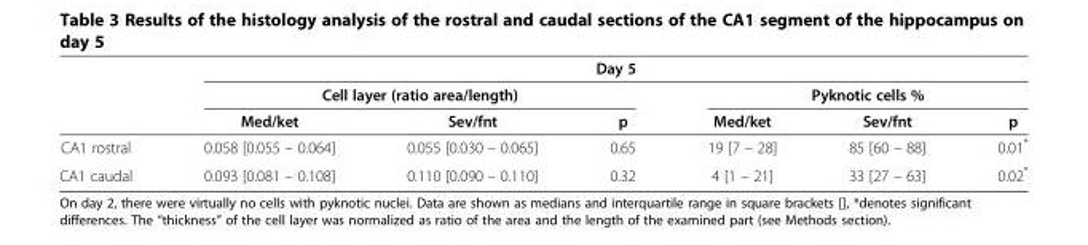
<table><thead><tr><td rowspan="3"></td><td></td><td></td><td>Day 5</td><td></td><td></td><td></td></tr><tr><td colspan="3">Cell layer (ratio area/length)</td><td colspan="3">Pyknotic cells %</td></tr><tr><td>Med/ket</td><td>Sev/fnt</td><td>p</td><td>Med/ket</td><td>Sev/fnt</td><td>p</td></tr></thead><tbody><tr><td>CA1 rostral</td><td>0.058 [0.055 – 0.064]</td><td>0.055 [0.030 – 0.065]</td><td>0.65</td><td>19 [7 – 28]</td><td>85 [60 – 88]</td><td>0.01*</td></tr><tr><td>CA1 caudal</td><td>0.093 [0.081 – 0.108]</td><td>0.110 [0.090 – 0.110]</td><td>0.32</td><td>4 [1 – 21]</td><td>33 [27 – 63]</td><td>0.02*</td></tr></tbody></table>